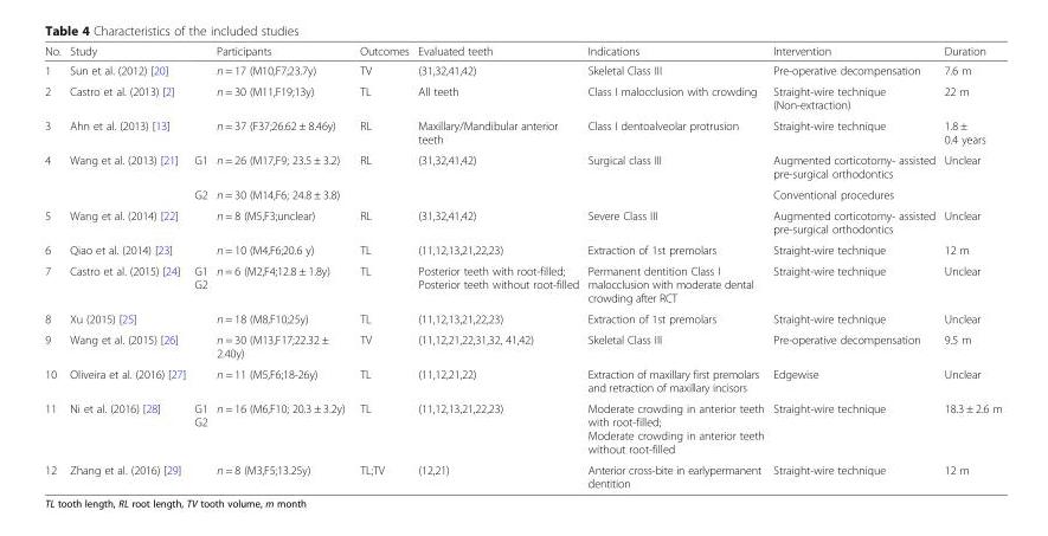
<table><thead><tr><td>No.</td><td>Study</td><td></td><td>Participants</td><td>Outcomes</td><td>Evaluated teeth</td><td>Indications</td><td>Intervention</td><td>Duration</td></tr></thead><tbody><tr><td>1</td><td>Sun et al. (2012) [20]</td><td></td><td>n = 17 (M10,F7;23.7y)</td><td>TV</td><td>(31,32,41,42)</td><td>Skeletal Class III</td><td>Pre-operative decompensation</td><td>7.6 m</td></tr><tr><td>2</td><td>Castro et al. (2013) [2]</td><td></td><td>n = 30 (M11,F19;13y)</td><td>TL</td><td>All teeth</td><td>Class I malocclusion with crowding</td><td>Straight-wire technique (Non-extraction)</td><td>22 m</td></tr><tr><td>3</td><td>Ahn et al. (2013) [13]</td><td></td><td>n = 37 (F37;26.62 ± 8.46y)</td><td>RL</td><td>Maxillary/Mandibular anterior teeth</td><td>Class I dentoalveolar protrusion</td><td>Straight-wire technique</td><td>1.8 ± 0.4 years</td></tr><tr><td rowspan="2">4</td><td rowspan="2">Wang et al. (2013) [21]</td><td>G1</td><td>n = 26 (M17,F9; 23.5 ± 3.2)</td><td>RL</td><td>(31,32,41,42)</td><td>Surgical class III</td><td>Augmented corticotomy- assisted pre-surgical orthodontics</td><td>Unclear</td></tr><tr><td>G2</td><td>n = 30 (M14,F6; 24.8 ± 3.8)</td><td></td><td></td><td></td><td>Conventional procedures</td><td></td></tr><tr><td>5</td><td>Wang et al. (2014) [22]</td><td></td><td>n = 8 (M5,F3;unclear)</td><td>RL</td><td>(31,32,41,42)</td><td>Severe Class III</td><td>Augmented corticotomy- assisted pre-surgical orthodontics</td><td>Unclear</td></tr><tr><td>6</td><td>Qiao et al. (2014) [23]</td><td></td><td>n = 10 (M4,F6;20.6 y)</td><td>TL</td><td>(11,12,13,21,22,23)</td><td>Extraction of 1st premolars</td><td>Straight-wire technique</td><td>12 m</td></tr><tr><td>7</td><td>Castro et al. (2015) [24]</td><td>G1 G2</td><td>n = 6 (M2,F4;12.8 ± 1.8y)</td><td>TL</td><td>Posterior teeth with root-filled; Posterior teeth without root-filled</td><td>Permanent dentition Class I malocclusion with moderate dental crowding after RCT</td><td>Straight-wire technique</td><td>Unclear</td></tr><tr><td>8</td><td>Xu (2015) [25]</td><td></td><td>n = 18 (M8,F10;25y)</td><td>TL</td><td>(11,12,13,21,22,23)</td><td>Extraction of 1st premolars</td><td>Straight-wire technique</td><td>Unclear</td></tr><tr><td>9</td><td>Wang et al. (2015) [26]</td><td></td><td>n = 30 (M13,F17;22.32 ± 2.40y)</td><td>TV</td><td>(11,12,21,22,31,32, 41,42)</td><td>Skeletal Class III</td><td>Pre-operative decompensation</td><td>9.5 m</td></tr><tr><td>10</td><td>Oliveira et al. (2016) [27]</td><td></td><td>n = 11 (M5,F6;18-26y)</td><td>TL</td><td>(11,12,21,22)</td><td>Extraction of maxillary first premolars and retraction of maxillary incisors</td><td>Edgewise</td><td>Unclear</td></tr><tr><td>11</td><td>Ni et al. (2016) [28]</td><td>G1 G2</td><td>n = 16 (M6,F10; 20.3 ± 3.2y)</td><td>TL</td><td>(11,12,13,21,22,23)</td><td>Moderate crowding in anterior teeth with root-filled; Moderate crowding in anterior teeth without root-filled</td><td>Straight-wire technique</td><td>18.3 ± 2.6 m</td></tr><tr><td>12</td><td>Zhang et al. (2016) [29]</td><td></td><td>n = 8 (M3,F5;13.25y)</td><td>TL;TV</td><td>(12,21)</td><td>Anterior cross-bite in earlypermanent dentition</td><td>Straight-wire technique</td><td>12 m</td></tr></tbody></table>